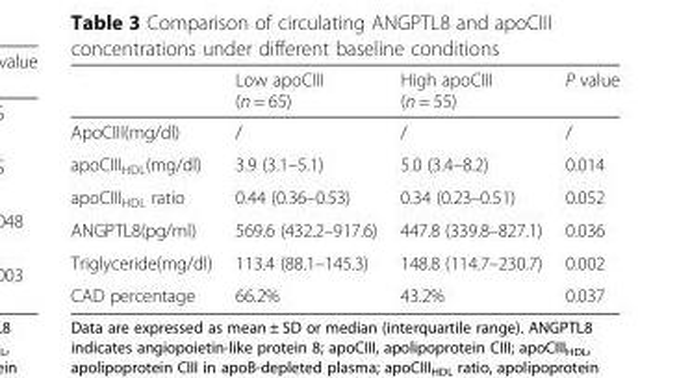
<table><thead><tr><td></td><td>Low apoCIII (n = 65)</td><td>High apoCIII (n = 55)</td><td>P value</td></tr></thead><tbody><tr><td>ApoCIII(mg/dl)</td><td>/</td><td>/</td><td>/</td></tr><tr><td>apoCIII<sub>HDL</sub>(mg/dl)</td><td>3.9 (3.1–5.1)</td><td>5.0 (3.4–8.2)</td><td>0.014</td></tr><tr><td>apoCIII<sub>HDL</sub> ratio</td><td>0.44 (0.36–0.53)</td><td>0.34 (0.23–0.51)</td><td>0.052</td></tr><tr><td>ANGPTL8(pg/ml)</td><td>569.6 (432.2–917.6)</td><td>447.8 (339.8–827.1)</td><td>0.036</td></tr><tr><td>Triglyceride(mg/dl)</td><td>113.4 (88.1–145.3)</td><td>148.8 (114.7–230.7)</td><td>0.002</td></tr><tr><td>CAD percentage</td><td>66.2%</td><td>43.2%</td><td>0.037</td></tr></tbody></table>